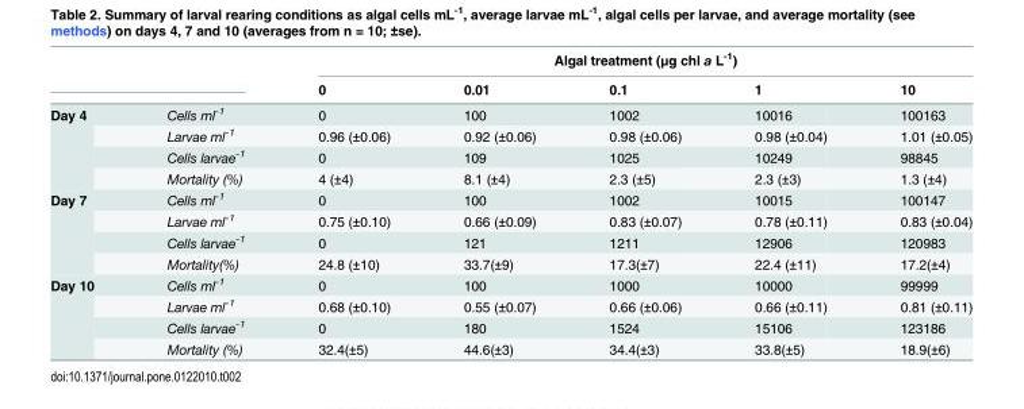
<table><thead><tr><td rowspan="2"></td><td rowspan="2"></td><td colspan="5">Algal treatment (μg chl a L<sup>-1</sup>)</td></tr><tr><td>0</td><td>0.01</td><td>0.1</td><td>1</td><td>10</td></tr></thead><tbody><tr><td rowspan="4">Day 4</td><td>Cells ml<sup>-1</sup></td><td>0</td><td>100</td><td>1002</td><td>10016</td><td>100163</td></tr><tr><td>Larvae ml<sup>-1</sup></td><td>0.96 (±0.06)</td><td>0.92 (±0.06)</td><td>0.98 (±0.06)</td><td>0.98 (±0.04)</td><td>1.01 (±0.05)</td></tr><tr><td>Cells larvae<sup>-1</sup></td><td>0</td><td>109</td><td>1025</td><td>10249</td><td>98845</td></tr><tr><td>Mortality (%)</td><td>4 (±4)</td><td>8.1 (±4)</td><td>2.3 (±5)</td><td>2.3 (±3)</td><td>1.3 (±4)</td></tr><tr><td rowspan="4">Day 7</td><td>Cells ml<sup>-1</sup></td><td>0</td><td>100</td><td>1002</td><td>10015</td><td>100147</td></tr><tr><td>Larvae ml<sup>-1</sup></td><td>0.75 (±0.10)</td><td>0.66 (±0.09)</td><td>0.83 (±0.07)</td><td>0.78 (±0.11)</td><td>0.83 (±0.04)</td></tr><tr><td>Cells larvae<sup>-1</sup></td><td>0</td><td>121</td><td>1211</td><td>12906</td><td>120983</td></tr><tr><td>Mortality(%)</td><td>24.8 (±10)</td><td>33.7(±9)</td><td>17.3(±7)</td><td>22.4 (±11)</td><td>17.2(±4)</td></tr><tr><td rowspan="4">Day 10</td><td>Cells ml<sup>-1</sup></td><td>0</td><td>100</td><td>1000</td><td>10000</td><td>99999</td></tr><tr><td>Larvae ml<sup>-1</sup></td><td>0.68 (±0.10)</td><td>0.55 (±0.07)</td><td>0.66 (±0.06)</td><td>0.66 (±0.11)</td><td>0.81 (±0.11)</td></tr><tr><td>Cells larvae<sup>-1</sup></td><td>0</td><td>180</td><td>1524</td><td>15106</td><td>123186</td></tr><tr><td>Mortality (%)</td><td>32.4(±5)</td><td>44.6(±3)</td><td>34.4(±3)</td><td>33.8(±5)</td><td>18.9(±6)</td></tr></tbody></table>